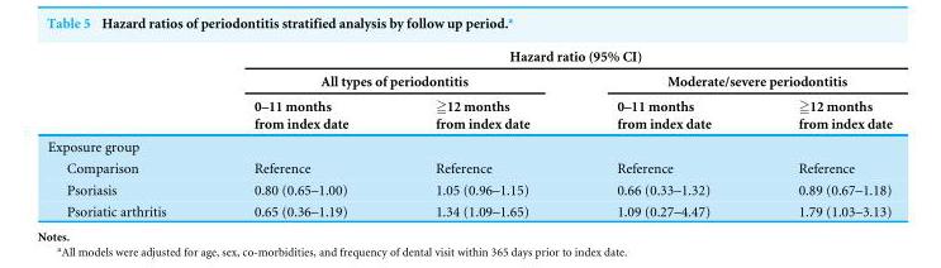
<table><thead><tr><td rowspan="3"></td><td colspan="4">Hazard ratio (95% CI)</td></tr><tr><td colspan="2">All types of periodontitis</td><td colspan="2">Moderate/severe periodontitis</td></tr><tr><td>0–11 months from index date</td><td>≧12 months from index date</td><td>0–11 months from index date</td><td>≧12 months from index date</td></tr></thead><tbody><tr><td colspan="5">Exposure group</td></tr><tr><td>Comparison</td><td>Reference</td><td>Reference</td><td>Reference</td><td>Reference</td></tr><tr><td>Psoriasis</td><td>0.80 (0.65–1.00)</td><td>1.05 (0.96–1.15)</td><td>0.66 (0.33–1.32)</td><td>0.89 (0.67–1.18)</td></tr><tr><td>Psoriatic arthritis</td><td>0.65 (0.36–1.19)</td><td>1.34 (1.09–1.65)</td><td>1.09 (0.27–4.47)</td><td>1.79 (1.03–3.13)</td></tr></tbody></table>